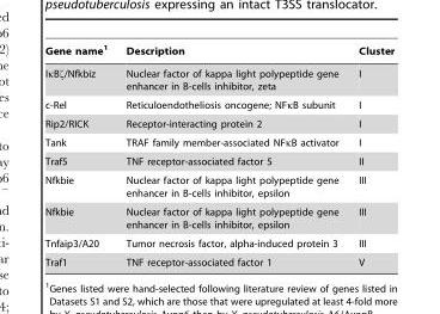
<table><thead><tr><td>Gene name<sup>1</sup></td><td>Description</td><td>Cluster</td></tr></thead><tbody><tr><td>IκBζ/Nfkbiz</td><td>Nuclear factor of kappa light polypeptide gene enhancer in B-cells inhibitor, zeta</td><td>I</td></tr><tr><td>c-Rel</td><td>Reticuloendotheliosis oncogene; NFκB subunit</td><td>I</td></tr><tr><td>Rip2/RICK</td><td>Receptor-interacting protein 2</td><td>I</td></tr><tr><td>Tank</td><td>TRAF family member-associated NFκB activator</td><td>I</td></tr><tr><td>Traf5</td><td>TNF receptor-associated factor 5</td><td>II</td></tr><tr><td>Nfkbie</td><td>Nuclear factor of kappa light polypeptide gene enhancer in B-cells inhibitor, epsilon</td><td>III</td></tr><tr><td>Nfkbie</td><td>Nuclear factor of kappa light polypeptide gene enhancer in B-cells inhibitor, epsilon</td><td>III</td></tr><tr><td>Tnfaip3/A20</td><td>Tumor necrosis factor, alpha-induced protein 3</td><td>III</td></tr><tr><td>Traf1</td><td>TNF receptor-associated factor 1</td><td>V</td></tr></tbody></table>